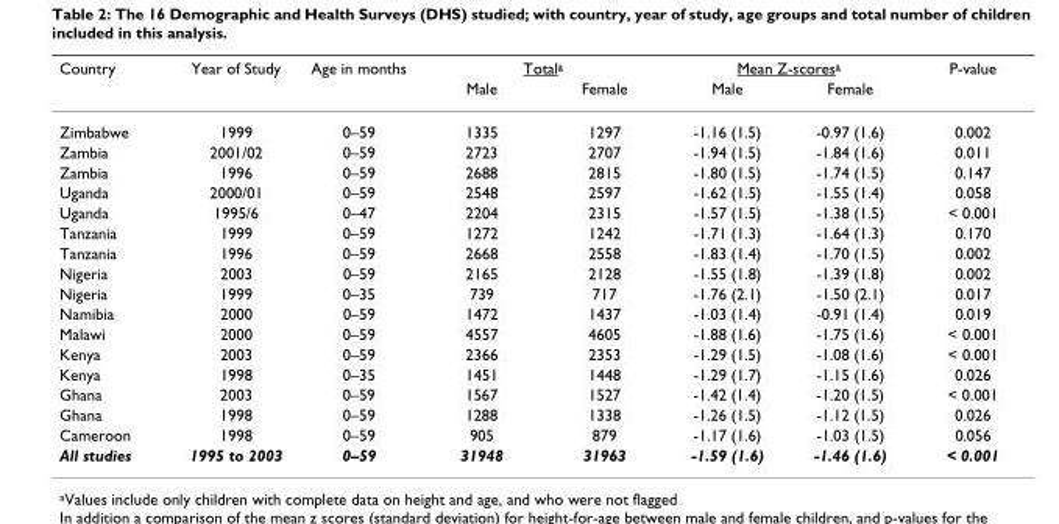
<table><thead><tr><td rowspan="2">Country</td><td rowspan="2">Year of Study</td><td rowspan="2">Age in months</td><td colspan="2">Totala</td><td colspan="2">Mean Z-scoresa</td><td rowspan="2">P-value</td></tr><tr><td>Male</td><td>Female</td><td>Male</td><td>Female</td></tr></thead><tbody><tr><td>Zimbabwe</td><td>1999</td><td>0–59</td><td>1335</td><td>1297</td><td>-1.16 (1.5)</td><td>-0.97 (1.6)</td><td>0.002</td></tr><tr><td>Zambia</td><td>2001/02</td><td>0–59</td><td>2723</td><td>2707</td><td>-1.94 (1.5)</td><td>-1.84 (1.6)</td><td>0.011</td></tr><tr><td>Zambia</td><td>1996</td><td>0–59</td><td>2688</td><td>2815</td><td>-1.80 (1.5)</td><td>-1.74 (1.5)</td><td>0.147</td></tr><tr><td>Uganda</td><td>2000/01</td><td>0–59</td><td>2548</td><td>2597</td><td>-1.62 (1.5)</td><td>-1.55 (1.4)</td><td>0.058</td></tr><tr><td>Uganda</td><td>1995/6</td><td>0–47</td><td>2204</td><td>2315</td><td>-1.57 (1.5)</td><td>-1.38 (1.5)</td><td>&lt; 0.001</td></tr><tr><td>Tanzania</td><td>1999</td><td>0–59</td><td>1272</td><td>1242</td><td>-1.71 (1.3)</td><td>-1.64 (1.3)</td><td>0.170</td></tr><tr><td>Tanzania</td><td>1996</td><td>0–59</td><td>2668</td><td>2558</td><td>-1.83 (1.4)</td><td>-1.70 (1.5)</td><td>0.002</td></tr><tr><td>Nigeria</td><td>2003</td><td>0–59</td><td>2165</td><td>2128</td><td>-1.55 (1.8)</td><td>-1.39 (1.8)</td><td>0.002</td></tr><tr><td>Nigeria</td><td>1999</td><td>0–35</td><td>739</td><td>717</td><td>-1.76 (2.1)</td><td>-1.50 (2.1)</td><td>0.017</td></tr><tr><td>Namibia</td><td>2000</td><td>0–59</td><td>1472</td><td>1437</td><td>-1.03 (1.4)</td><td>-0.91 (1.4)</td><td>0.019</td></tr><tr><td>Malawi</td><td>2000</td><td>0–59</td><td>4557</td><td>4605</td><td>-1.88 (1.6)</td><td>-1.75 (1.6)</td><td>&lt; 0.001</td></tr><tr><td>Kenya</td><td>2003</td><td>0–59</td><td>2366</td><td>2353</td><td>-1.29 (1.5)</td><td>-1.08 (1.6)</td><td>&lt; 0.001</td></tr><tr><td>Kenya</td><td>1998</td><td>0–35</td><td>1451</td><td>1448</td><td>-1.29 (1.7)</td><td>-1.15 (1.6)</td><td>0.026</td></tr><tr><td>Ghana</td><td>2003</td><td>0–59</td><td>1567</td><td>1527</td><td>-1.42 (1.4)</td><td>-1.20 (1.5)</td><td>&lt; 0.001</td></tr><tr><td>Ghana</td><td>1998</td><td>0–59</td><td>1288</td><td>1338</td><td>-1.26 (1.5)</td><td>-1.12 (1.5)</td><td>0.026</td></tr><tr><td>Cameroon</td><td>1998</td><td>0–59</td><td>905</td><td>879</td><td>-1.17 (1.6)</td><td>-1.03 (1.5)</td><td>0.056</td></tr><tr><td>All studies</td><td>1995 to 2003</td><td>0–59</td><td>31948</td><td>31963</td><td>-1.59 (1.6)</td><td>-1.46 (1.6)</td><td>&lt; 0.001</td></tr></tbody></table>